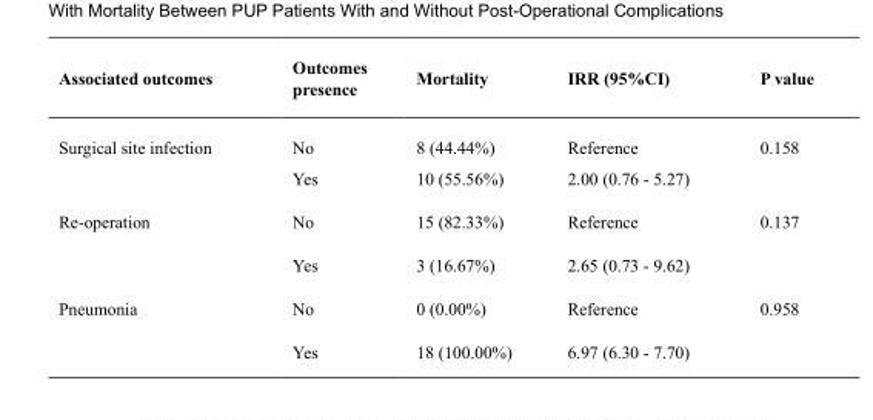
<table><thead><tr><td>Associated outcomes</td><td>Outcomes presence</td><td>Mortality</td><td>IRR (95%CI)</td><td>P value</td></tr></thead><tbody><tr><td rowspan="2">Surgical site infection</td><td>No</td><td>8 (44.44%)</td><td>Reference</td><td>0.158</td></tr><tr><td>Yes</td><td>10 (55.56%)</td><td>2.00 (0.76 - 5.27)</td><td></td></tr><tr><td rowspan="2">Re-operation</td><td>No</td><td>15 (82.33%)</td><td>Reference</td><td>0.137</td></tr><tr><td>Yes</td><td>3 (16.67%)</td><td>2.65 (0.73 - 9.62)</td><td></td></tr><tr><td rowspan="2">Pneumonia</td><td>No</td><td>0 (0.00%)</td><td>Reference</td><td>0.958</td></tr><tr><td>Yes</td><td>18 (100.00%)</td><td>6.97 (6.30 - 7.70)</td><td></td></tr></tbody></table>